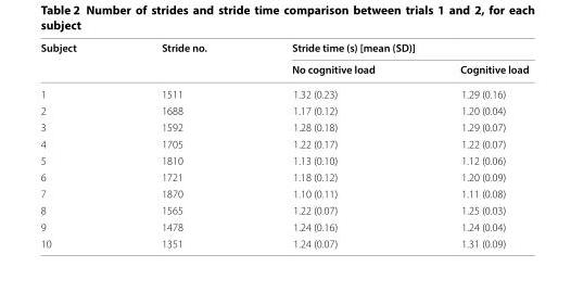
<table><thead><tr><td rowspan="2">Subject</td><td rowspan="2">Stride no.</td><td colspan="2">Stride time (s) [mean (SD)]</td></tr><tr><td>No cognitive load</td><td>Cognitive load</td></tr></thead><tbody><tr><td>1</td><td>1511</td><td>1.32 (0.23)</td><td>1.29 (0.16)</td></tr><tr><td>2</td><td>1688</td><td>1.17 (0.12)</td><td>1.20 (0.04)</td></tr><tr><td>3</td><td>1592</td><td>1.28 (0.18)</td><td>1.29 (0.07)</td></tr><tr><td>4</td><td>1705</td><td>1.22 (0.17)</td><td>1.22 (0.07)</td></tr><tr><td>5</td><td>1810</td><td>1.13 (0.10)</td><td>1.12 (0.06)</td></tr><tr><td>6</td><td>1721</td><td>1.18 (0.12)</td><td>1.20 (0.09)</td></tr><tr><td>7</td><td>1870</td><td>1.10 (0.11)</td><td>1.11 (0.08)</td></tr><tr><td>8</td><td>1565</td><td>1.22 (0.07)</td><td>1.25 (0.03)</td></tr><tr><td>9</td><td>1478</td><td>1.24 (0.16)</td><td>1.24 (0.04)</td></tr><tr><td>10</td><td>1351</td><td>1.24 (0.07)</td><td>1.31 (0.09)</td></tr></tbody></table>